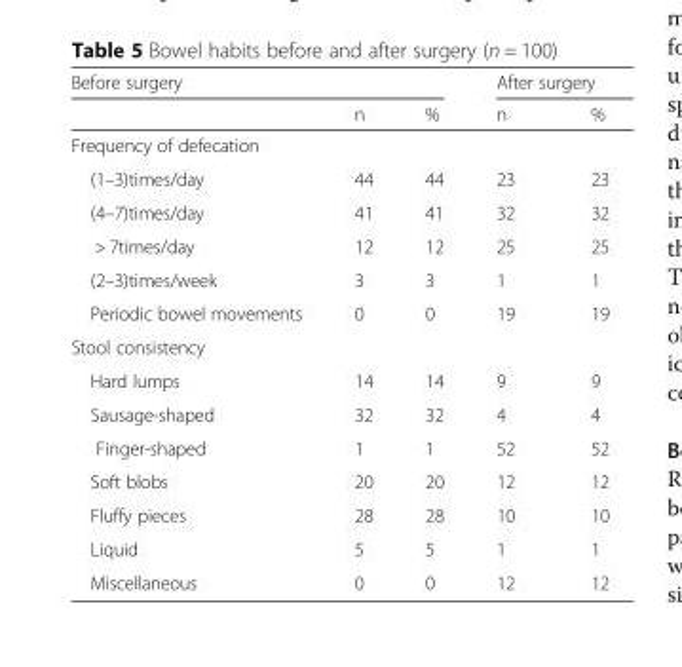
<table><thead><tr><td colspan="3">Before surgery</td><td colspan="2">After surgery</td></tr><tr><td></td><td>n</td><td>%</td><td>n</td><td>%</td></tr></thead><tbody><tr><td colspan="5">Frequency of defecation</td></tr><tr><td>(1–3)times/day</td><td>44</td><td>44</td><td>23</td><td>23</td></tr><tr><td>(4–7)times/day</td><td>41</td><td>41</td><td>32</td><td>32</td></tr><tr><td>&gt; 7times/day</td><td>12</td><td>12</td><td>25</td><td>25</td></tr><tr><td>(2–3)times/week</td><td>3</td><td>3</td><td>1</td><td>1</td></tr><tr><td>Periodic bowel movements</td><td>0</td><td>0</td><td>19</td><td>19</td></tr><tr><td colspan="5">Stool consistency</td></tr><tr><td>Hard lumps</td><td>14</td><td>14</td><td>9</td><td>9</td></tr><tr><td>Sausage-shaped</td><td>32</td><td>32</td><td>4</td><td>4</td></tr><tr><td>Finger-shaped</td><td>1</td><td>1</td><td>52</td><td>52</td></tr><tr><td>Soft blobs</td><td>20</td><td>20</td><td>12</td><td>12</td></tr><tr><td>Fluffy pieces</td><td>28</td><td>28</td><td>10</td><td>10</td></tr><tr><td>Liquid</td><td>5</td><td>5</td><td>1</td><td>1</td></tr><tr><td>Miscellaneous</td><td>0</td><td>0</td><td>12</td><td>12</td></tr></tbody></table>